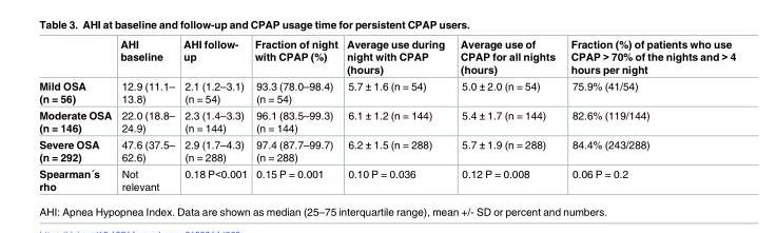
<table><thead><tr><td></td><td>AHI baseline</td><td>AHI follow- up</td><td>Fraction of night with CPAP (%)</td><td>Average use during night with CPAP (hours)</td><td>Average use of CPAP for all nights (hours)</td><td>Fraction (%) of patients who use CPAP &gt; 70% of the nights and &gt; 4 hours per night</td></tr></thead><tbody><tr><td>Mild OSA (n = 56)</td><td>12.9 (11.1– 13.8)</td><td>2.1 (1.2–3.1) (n = 54)</td><td>93.3 (78.0–98.4) (n = 54)</td><td>5.7 ± 1.6 (n = 54)</td><td>5.0 ± 2.0 (n = 54)</td><td>75.9% (41/54)</td></tr><tr><td>Moderate OSA (n = 146)</td><td>22.0 (18.8– 24.9)</td><td>2.3 (1.4–3.3) (n = 144)</td><td>96.1 (83.5–99.3) (n = 144)</td><td>6.1 ± 1.2 (n = 144)</td><td>5.4 ± 1.7 (n = 144)</td><td>82.6% (119/144)</td></tr><tr><td>Severe OSA (n = 292)</td><td>47.6 (37.5– 62.6)</td><td>2.9 (1.7–4.3) (n = 288)</td><td>97.4 (87.7–99.7) (n = 288)</td><td>6.2 ± 1.5 (n = 288)</td><td>5.7 ± 1.9 (n = 288)</td><td>84.4% (243/288)</td></tr><tr><td>Spearman´s rho</td><td>Not relevant</td><td>0.18 P&lt;0.001</td><td>0.15 P = 0.001</td><td>0.10 P = 0.036</td><td>0.12 P = 0.008</td><td>0.06 P = 0.2</td></tr></tbody></table>